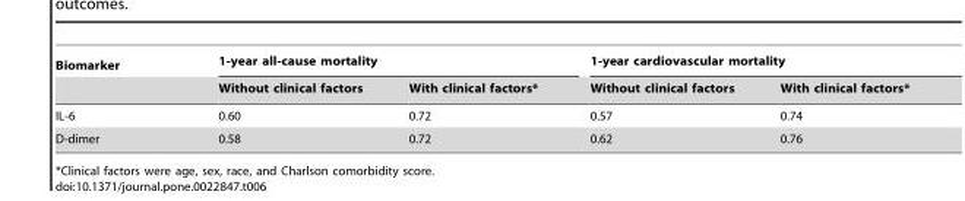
<table><thead><tr><td rowspan="2">Biomarker</td><td colspan="2">1-year all-cause mortality</td><td colspan="2">1-year cardiovascular mortality</td></tr><tr><td>Without clinical factors</td><td>With clinical factors*</td><td>Without clinical factors</td><td>With clinical factors*</td></tr></thead><tbody><tr><td>IL-6</td><td>0.60</td><td>0.72</td><td>0.57</td><td>0.74</td></tr><tr><td>D-dimer</td><td>0.58</td><td>0.72</td><td>0.62</td><td>0.76</td></tr></tbody></table>